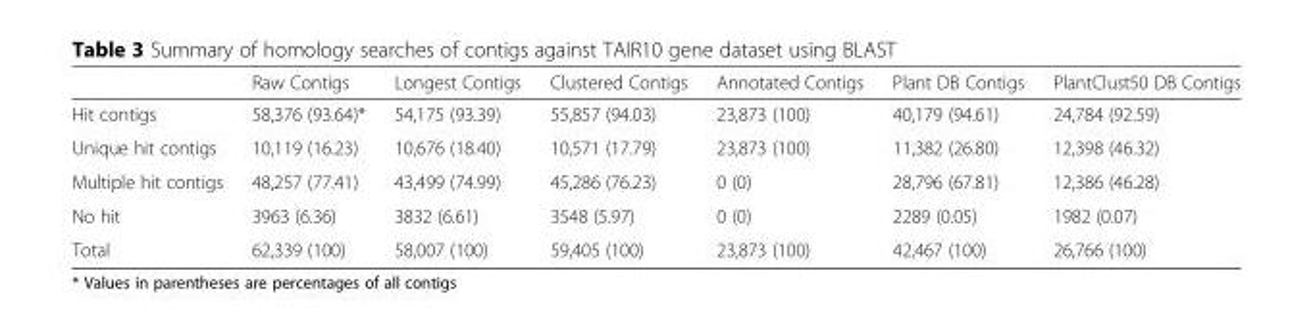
<table><thead><tr><td></td><td>Raw Contigs</td><td>Longest Contigs</td><td>Clustered Contigs</td><td>Annotated Contigs</td><td>Plant DB Contigs</td><td>PlantClust50 DB Contigs</td></tr></thead><tbody><tr><td>Hit contigs</td><td>58,376 (93.64)*</td><td>54,175 (93.39)</td><td>55,857 (94.03)</td><td>23,873 (100)</td><td>40,179 (94.61)</td><td>24,784 (92.59)</td></tr><tr><td>Unique hit contigs</td><td>10,119 (16.23)</td><td>10,676 (18.40)</td><td>10,571 (17.79)</td><td>23,873 (100)</td><td>11,382 (26.80)</td><td>12,398 (46.32)</td></tr><tr><td>Multiple hit contigs</td><td>48,257 (77.41)</td><td>43,499 (74.99)</td><td>45,286 (76.23)</td><td>0 (0)</td><td>28,796 (67.81)</td><td>12,386 (46.28)</td></tr><tr><td>No hit</td><td>3963 (6.36)</td><td>3832 (6.61)</td><td>3548 (5.97)</td><td>0 (0)</td><td>2289 (0.05)</td><td>1982 (0.07)</td></tr><tr><td>Total</td><td>62,339 (100)</td><td>58,007 (100)</td><td>59,405 (100)</td><td>23,873 (100)</td><td>42,467 (100)</td><td>26,766 (100)</td></tr></tbody></table>